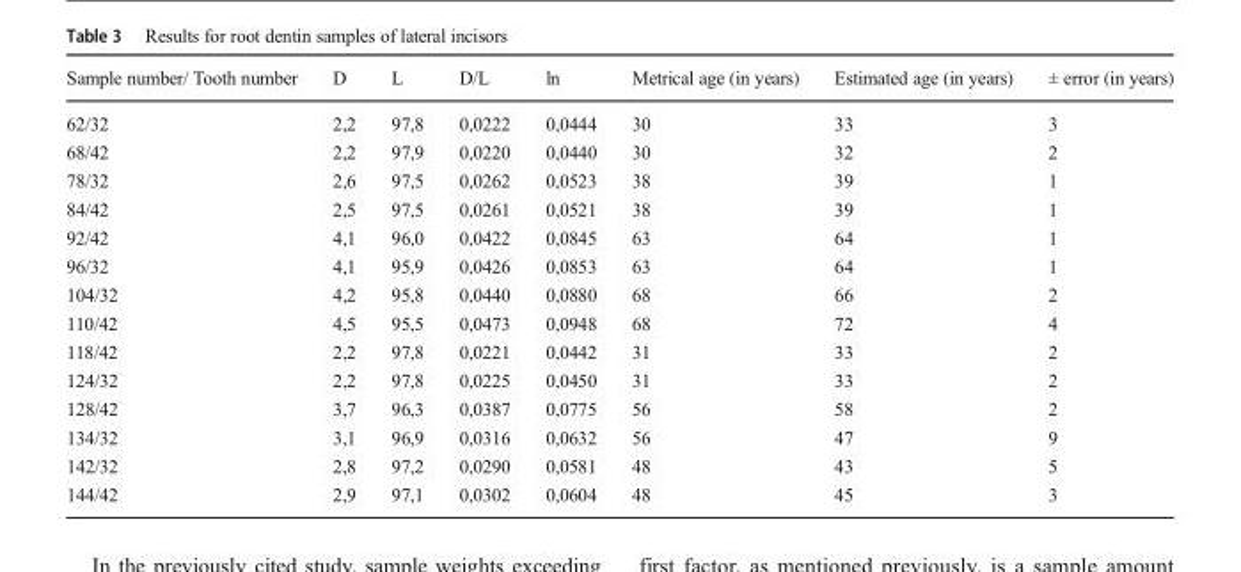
<table><thead><tr><td>Sample number/ Tooth number</td><td>D</td><td>L</td><td>D/L</td><td>ln</td><td>Metrical age (in years)</td><td>Estimated age (in years)</td><td>± error (in years)</td></tr></thead><tbody><tr><td>62/32</td><td>2,2</td><td>97,8</td><td>0,0222</td><td>0,0444</td><td>30</td><td>33</td><td>3</td></tr><tr><td>68/42</td><td>2,2</td><td>97,9</td><td>0,0220</td><td>0,0440</td><td>30</td><td>32</td><td>2</td></tr><tr><td>78/32</td><td>2,6</td><td>97,5</td><td>0,0262</td><td>0,0523</td><td>38</td><td>39</td><td>1</td></tr><tr><td>84/42</td><td>2,5</td><td>97,5</td><td>0,0261</td><td>0,0521</td><td>38</td><td>39</td><td>1</td></tr><tr><td>92/42</td><td>4,1</td><td>96,0</td><td>0,0422</td><td>0,0845</td><td>63</td><td>64</td><td>1</td></tr><tr><td>96/32</td><td>4,1</td><td>95,9</td><td>0,0426</td><td>0,0853</td><td>63</td><td>64</td><td>1</td></tr><tr><td>104/32</td><td>4,2</td><td>95,8</td><td>0,0440</td><td>0,0880</td><td>68</td><td>66</td><td>2</td></tr><tr><td>110/42</td><td>4,5</td><td>95,5</td><td>0,0473</td><td>0,0948</td><td>68</td><td>72</td><td>4</td></tr><tr><td>118/42</td><td>2,2</td><td>97,8</td><td>0,0221</td><td>0,0442</td><td>31</td><td>33</td><td>2</td></tr><tr><td>124/32</td><td>2,2</td><td>97,8</td><td>0,0225</td><td>0,0450</td><td>31</td><td>33</td><td>2</td></tr><tr><td>128/42</td><td>3,7</td><td>96,3</td><td>0,0387</td><td>0,0775</td><td>56</td><td>58</td><td>2</td></tr><tr><td>134/32</td><td>3,1</td><td>96,9</td><td>0,0316</td><td>0,0632</td><td>56</td><td>47</td><td>9</td></tr><tr><td>142/32</td><td>2,8</td><td>97,2</td><td>0,0290</td><td>0,0581</td><td>48</td><td>43</td><td>5</td></tr><tr><td>144/42</td><td>2,9</td><td>97,1</td><td>0,0302</td><td>0,0604</td><td>48</td><td>45</td><td>3</td></tr></tbody></table>